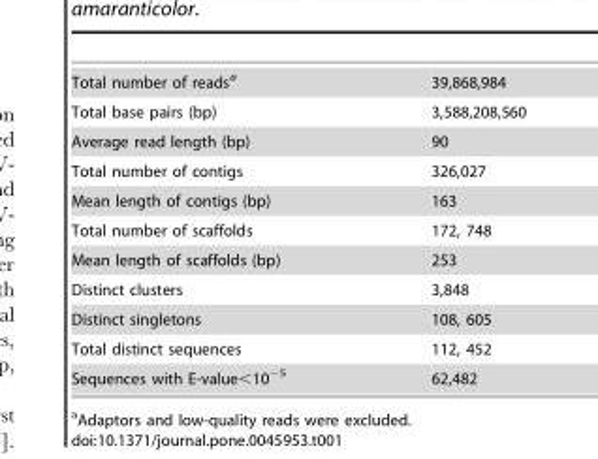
<table><tbody><tr><td>Total number of reads<sup>a</sup></td><td>39,868,984</td></tr><tr><td>Total base pairs (bp)</td><td>3,588,208,560</td></tr><tr><td>Average read length (bp)</td><td>90</td></tr><tr><td>Total number of contigs</td><td>326,027</td></tr><tr><td>Mean length of contigs (bp)</td><td>163</td></tr><tr><td>Total number of scaffolds</td><td>172, 748</td></tr><tr><td>Mean length of scaffolds (bp)</td><td>253</td></tr><tr><td>Distinct clusters</td><td>3,848</td></tr><tr><td>Distinct singletons</td><td>108, 605</td></tr><tr><td>Total distinct sequences</td><td>112, 452</td></tr><tr><td>Sequences with E-value&lt;10<sup>−5</sup></td><td>62,482</td></tr></tbody></table>